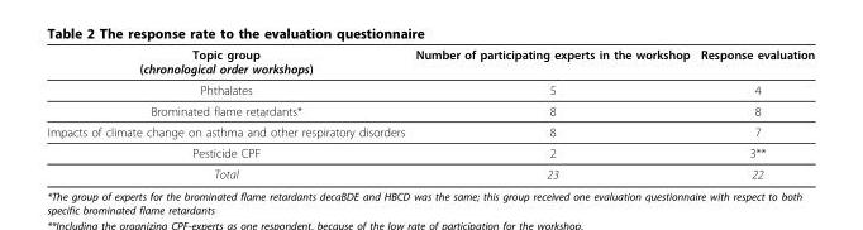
<table><thead><tr><td>Topic group (chronological order workshops)</td><td>Number of participating experts in the workshop</td><td>Response evaluation</td></tr></thead><tbody><tr><td>Phthalates</td><td>5</td><td>4</td></tr><tr><td>Brominated flame retardants*</td><td>8</td><td>8</td></tr><tr><td>Impacts of climate change on asthma and other respiratory disorders</td><td>8</td><td>7</td></tr><tr><td>Pesticide CPF</td><td>2</td><td>3**</td></tr><tr><td>Total</td><td>23</td><td>22</td></tr></tbody></table>